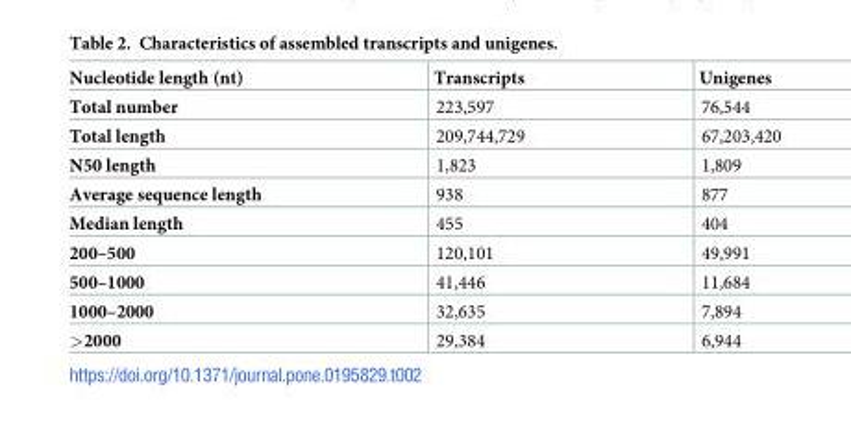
<table><thead><tr><td>Nucleotide length (nt)</td><td>Transcripts</td><td>Unigenes</td></tr></thead><tbody><tr><td>Total number</td><td>223,597</td><td>76,544</td></tr><tr><td>Total length</td><td>209,744,729</td><td>67,203,420</td></tr><tr><td>N50 length</td><td>1,823</td><td>1,809</td></tr><tr><td>Average sequence length</td><td>938</td><td>877</td></tr><tr><td>Median length</td><td>455</td><td>404</td></tr><tr><td>200–500</td><td>120,101</td><td>49,991</td></tr><tr><td>500–1000</td><td>41,446</td><td>11,684</td></tr><tr><td>1000–2000</td><td>32,635</td><td>7,894</td></tr><tr><td>&gt;2000</td><td>29,384</td><td>6,944</td></tr></tbody></table>